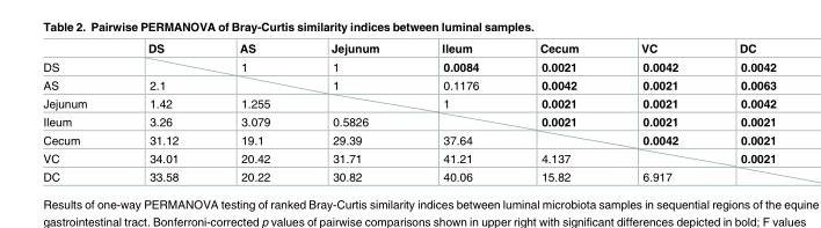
<table><thead><tr><td></td><td>DS</td><td>AS</td><td>Jejunum</td><td>Ileum</td><td>Cecum</td><td>VC</td><td>DC</td></tr></thead><tbody><tr><td>DS</td><td></td><td>1</td><td>1</td><td>0.0084</td><td>0.0021</td><td>0.0042</td><td>0.0042</td></tr><tr><td>AS</td><td>2.1</td><td></td><td>1</td><td>0.1176</td><td>0.0042</td><td>0.0021</td><td>0.0063</td></tr><tr><td>Jejunum</td><td>1.42</td><td>1.255</td><td></td><td>1</td><td>0.0021</td><td>0.0021</td><td>0.0042</td></tr><tr><td>Ileum</td><td>3.26</td><td>3.079</td><td>0.5826</td><td></td><td>0.0021</td><td>0.0021</td><td>0.0021</td></tr><tr><td>Cecum</td><td>31.12</td><td>19.1</td><td>29.39</td><td>37.64</td><td></td><td>0.0042</td><td>0.0021</td></tr><tr><td>VC</td><td>34.01</td><td>20.42</td><td>31.71</td><td>41.21</td><td>4.137</td><td></td><td>0.0021</td></tr><tr><td>DC</td><td>33.58</td><td>20.22</td><td>30.82</td><td>40.06</td><td>15.82</td><td>6.917</td><td></td></tr></tbody></table>